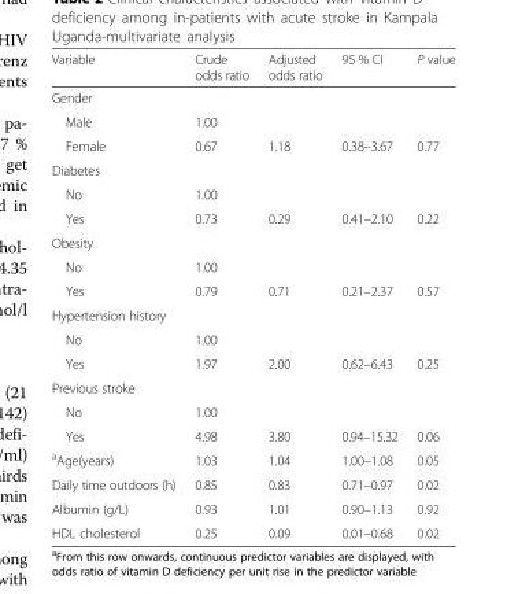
<table><thead><tr><td>Variable</td><td>Crude odds ratio</td><td>Adjusted odds ratio</td><td>95 % CI</td><td>P value</td></tr></thead><tbody><tr><td colspan="5">Gender</td></tr><tr><td>Male</td><td>1.00</td><td></td><td></td><td></td></tr><tr><td>Female</td><td>0.67</td><td>1.18</td><td>0.38–3.67</td><td>0.77</td></tr><tr><td colspan="5">Diabetes</td></tr><tr><td>No</td><td>1.00</td><td></td><td></td><td></td></tr><tr><td>Yes</td><td>0.73</td><td>0.29</td><td>0.41–2.10</td><td>0.22</td></tr><tr><td colspan="5">Obesity</td></tr><tr><td>No</td><td>1.00</td><td></td><td></td><td></td></tr><tr><td>Yes</td><td>0.79</td><td>0.71</td><td>0.21–2.37</td><td>0.57</td></tr><tr><td colspan="5">Hypertension history</td></tr><tr><td>No</td><td>1.00</td><td></td><td></td><td></td></tr><tr><td>Yes</td><td>1.97</td><td>2.00</td><td>0.62–6.43</td><td>0.25</td></tr><tr><td colspan="5">Previous stroke</td></tr><tr><td>No</td><td>1.00</td><td></td><td></td><td></td></tr><tr><td>Yes</td><td>4.98</td><td>3.80</td><td>0.94–15.32</td><td>0.06</td></tr><tr><td><sup>a</sup>Age(years)</td><td>1.03</td><td>1.04</td><td>1.00–1.08</td><td>0.05</td></tr><tr><td>Daily time outdoors (h)</td><td>0.85</td><td>0.83</td><td>0.71–0.97</td><td>0.02</td></tr><tr><td>Albumin (g/L)</td><td>0.93</td><td>1.01</td><td>0.90–1.13</td><td>0.92</td></tr><tr><td>HDL cholesterol</td><td>0.25</td><td>0.09</td><td>0.01–0.68</td><td>0.02</td></tr></tbody></table>